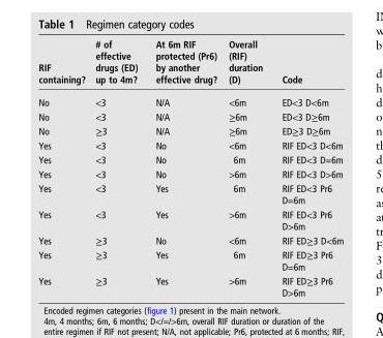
<table><thead><tr><td>RIF containing?</td><td># of effective drugs (ED) up to 4m?</td><td>At 6m RIF protected (Pr6) by another effective drug?</td><td>Overall (RIF) duration (D)</td><td>Code</td></tr></thead><tbody><tr><td>No</td><td>&lt;3</td><td>N/A</td><td>&lt;6m</td><td>ED&lt;3 D&lt;6m</td></tr><tr><td>No</td><td>&lt;3</td><td>N/A</td><td>≥6m</td><td>ED&lt;3 D≥6m</td></tr><tr><td>No</td><td>≥3</td><td>N/A</td><td>≥6m</td><td>ED≥3 D≥6m</td></tr><tr><td>Yes</td><td>&lt;3</td><td>No</td><td>&lt;6m</td><td>RIF ED&lt;3 D&lt;6m</td></tr><tr><td>Yes</td><td>&lt;3</td><td>No</td><td>6m</td><td>RIF ED&lt;3 D=6m</td></tr><tr><td>Yes</td><td>&lt;3</td><td>No</td><td>&gt;6m</td><td>RIF ED&lt;3 D&gt;6m</td></tr><tr><td>Yes</td><td>&lt;3</td><td>Yes</td><td>6m</td><td>RIF ED&lt;3 Pr6 D=6m</td></tr><tr><td>Yes</td><td>&lt;3</td><td>Yes</td><td>&gt;6m</td><td>RIF ED&lt;3 Pr6 D&gt;6m</td></tr><tr><td>Yes</td><td>≥3</td><td>No</td><td>&lt;6m</td><td>RIF ED≥3 D&lt;6m</td></tr><tr><td>Yes</td><td>≥3</td><td>Yes</td><td>6m</td><td>RIF ED≥3 Pr6 D=6m</td></tr><tr><td>Yes</td><td>≥3</td><td>Yes</td><td>&gt;6m</td><td>RIF ED≥3 Pr6 D&gt;6m</td></tr></tbody></table>